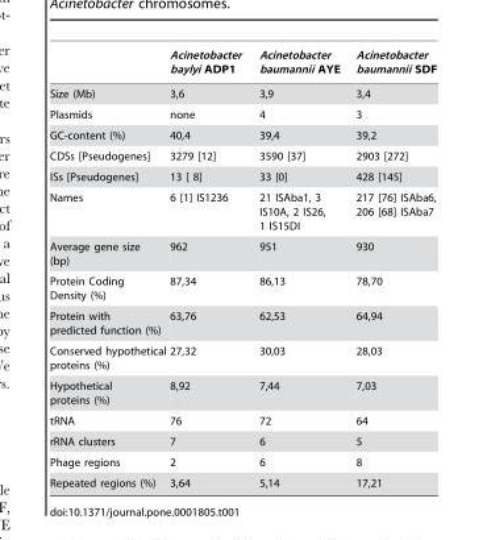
<table><thead><tr><td></td><td>Acinetobacter baylyi ADP1</td><td>Acinetobacter baumannii AYE</td><td>Acinetobacter baumannii SDF</td></tr></thead><tbody><tr><td>Size (Mb)</td><td>3,6</td><td>3,9</td><td>3,4</td></tr><tr><td>Plasmids</td><td>none</td><td>4</td><td>3</td></tr><tr><td>GC-content (%)</td><td>40,4</td><td>39,4</td><td>39,2</td></tr><tr><td>CDSs [Pseudogenes]</td><td>3279 [12]</td><td>3590 [37]</td><td>2903 [272]</td></tr><tr><td>ISs [Pseudogenes]</td><td>13 [ 8]</td><td>33 [0]</td><td>428 [145]</td></tr><tr><td>Names</td><td>6 [1] IS1236</td><td>21 ISAba1, 3 IS10A, 2 IS26, 1 IS15DI</td><td>217 [76] ISAba6, 206 [68] ISAba7</td></tr><tr><td>Average gene size (bp)</td><td>962</td><td>951</td><td>930</td></tr><tr><td>Protein Coding Density (%)</td><td>87,34</td><td>86,13</td><td>78,70</td></tr><tr><td>Protein with predicted function (%)</td><td>63,76</td><td>62,53</td><td>64,94</td></tr><tr><td>Conserved hypothetical proteins (%)</td><td>27,32</td><td>30,03</td><td>28,03</td></tr><tr><td>Hypothetical proteins (%)</td><td>8,92</td><td>7,44</td><td>7,03</td></tr><tr><td>tRNA</td><td>76</td><td>72</td><td>64</td></tr><tr><td>rRNA clusters</td><td>7</td><td>6</td><td>5</td></tr><tr><td>Phage regions</td><td>2</td><td>6</td><td>8</td></tr><tr><td>Repeated regions (%)</td><td>3,64</td><td>5,14</td><td>17,21</td></tr></tbody></table>